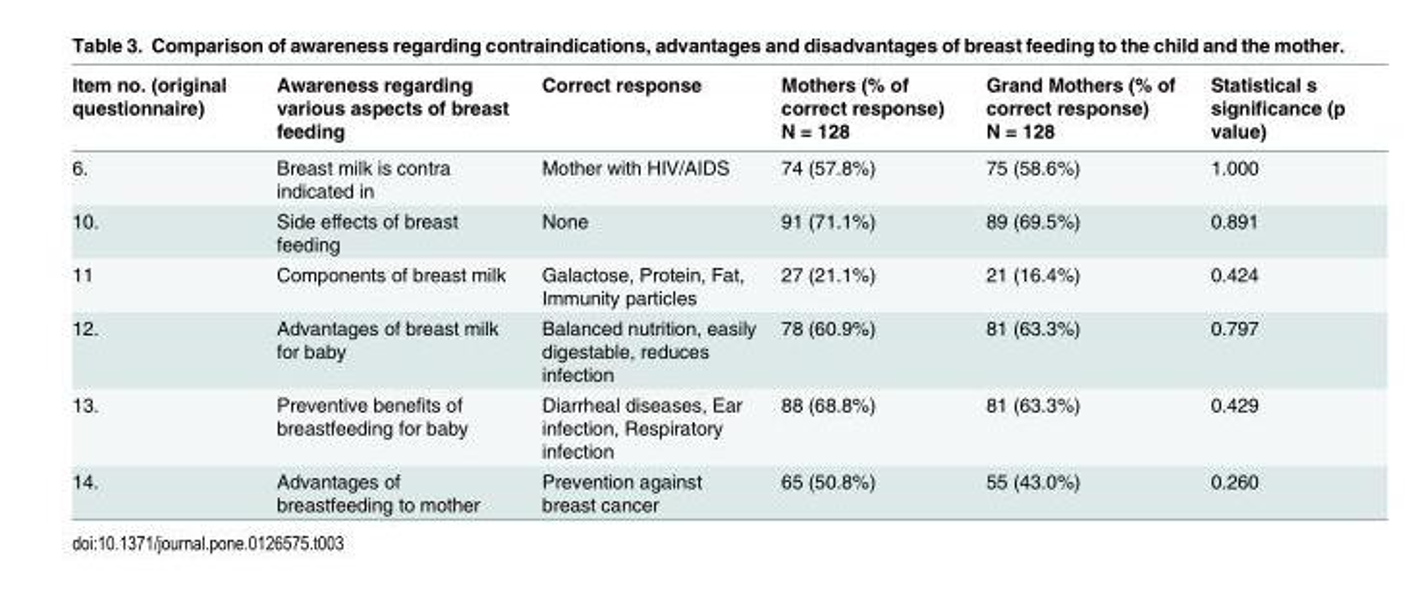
<table><thead><tr><td>Item no. (original questionnaire)</td><td>Awareness regarding various aspects of breast feeding</td><td>Correct response</td><td>Mothers (% of correct response) N = 128</td><td>Grand Mothers (% of correct response) N = 128</td><td>Statistical s significance (p value)</td></tr></thead><tbody><tr><td>6.</td><td>Breast milk is contra indicated in</td><td>Mother with HIV/AIDS</td><td>74 (57.8%)</td><td>75 (58.6%)</td><td>1.000</td></tr><tr><td>10.</td><td>Side effects of breast feeding</td><td>None</td><td>91 (71.1%)</td><td>89 (69.5%)</td><td>0.891</td></tr><tr><td>11</td><td>Components of breast milk</td><td>Galactose, Protein, Fat, Immunity particles</td><td>27 (21.1%)</td><td>21 (16.4%)</td><td>0.424</td></tr><tr><td>12.</td><td>Advantages of breast milk for baby</td><td>Balanced nutrition, easily digestable, reduces infection</td><td>78 (60.9%)</td><td>81 (63.3%)</td><td>0.797</td></tr><tr><td>13.</td><td>Preventive benefits of breastfeeding for baby</td><td>Diarrheal diseases, Ear infection, Respiratory infection</td><td>88 (68.8%)</td><td>81 (63.3%)</td><td>0.429</td></tr><tr><td>14.</td><td>Advantages of breastfeeding to mother</td><td>Prevention against breast cancer</td><td>65 (50.8%)</td><td>55 (43.0%)</td><td>0.260</td></tr></tbody></table>